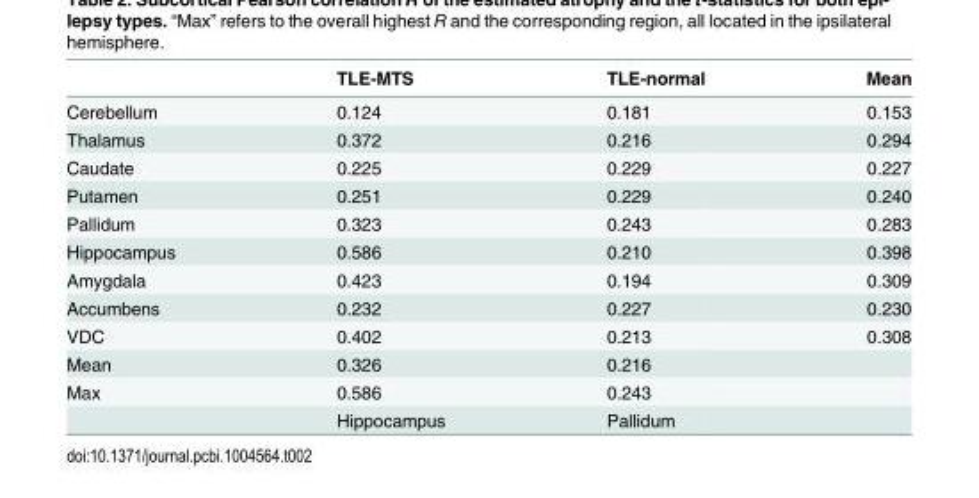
<table><thead><tr><td></td><td>TLE-MTS</td><td>TLE-normal</td><td>Mean</td></tr></thead><tbody><tr><td>Cerebellum</td><td>0.124</td><td>0.181</td><td>0.153</td></tr><tr><td>Thalamus</td><td>0.372</td><td>0.216</td><td>0.294</td></tr><tr><td>Caudate</td><td>0.225</td><td>0.229</td><td>0.227</td></tr><tr><td>Putamen</td><td>0.251</td><td>0.229</td><td>0.240</td></tr><tr><td>Pallidum</td><td>0.323</td><td>0.243</td><td>0.283</td></tr><tr><td>Hippocampus</td><td>0.586</td><td>0.210</td><td>0.398</td></tr><tr><td>Amygdala</td><td>0.423</td><td>0.194</td><td>0.309</td></tr><tr><td>Accumbens</td><td>0.232</td><td>0.227</td><td>0.230</td></tr><tr><td>VDC</td><td>0.402</td><td>0.213</td><td>0.308</td></tr><tr><td>Mean</td><td>0.326</td><td>0.216</td><td></td></tr><tr><td rowspan="2">Max</td><td>0.586</td><td>0.243</td><td></td></tr><tr><td>Hippocampus</td><td>Pallidum</td><td></td></tr></tbody></table>